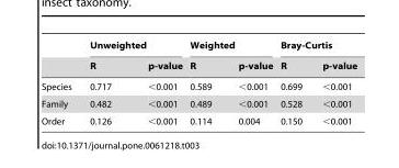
<table><thead><tr><td rowspan="2"></td><td colspan="2">Unweighted</td><td colspan="2">Weighted</td><td colspan="2">Bray-Curtis</td></tr><tr><td>R</td><td>p-value</td><td>R</td><td>p-value</td><td>R</td><td>p-value</td></tr></thead><tbody><tr><td>Species</td><td>0.717</td><td>&lt;0.001</td><td>0.589</td><td>&lt;0.001</td><td>0.699</td><td>&lt;0.001</td></tr><tr><td>Family</td><td>0.482</td><td>&lt;0.001</td><td>0.489</td><td>&lt;0.001</td><td>0.528</td><td>&lt;0.001</td></tr><tr><td>Order</td><td>0.126</td><td>&lt;0.001</td><td>0.114</td><td>0.004</td><td>0.150</td><td>&lt;0.001</td></tr></tbody></table>